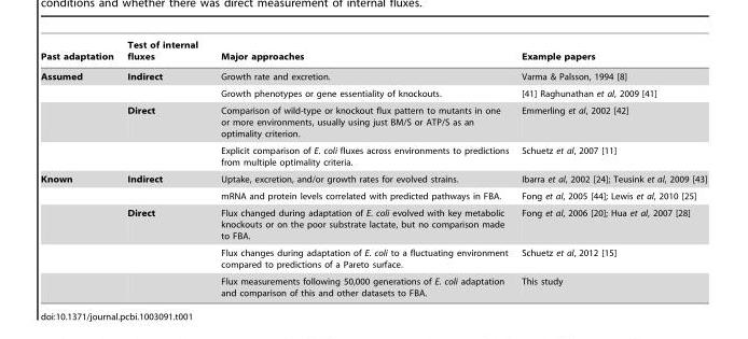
<table><thead><tr><td>Past adaptation</td><td>Test of internal fluxes</td><td>Major approaches</td><td>Example papers</td></tr></thead><tbody><tr><td rowspan="4">Assumed</td><td>Indirect</td><td>Growth rate and excretion.</td><td>Varma &amp; Palsson, 1994 [8]</td></tr><tr><td></td><td>Growth phenotypes or gene essentiality of knockouts.</td><td>[41] Raghunathan et al, 2009 [41]</td></tr><tr><td>Direct</td><td>Comparison of wild-type or knockout flux pattern to mutants in one or more environments, usually using just BM/S or ATP/S as an optimality criterion.</td><td>Emmerling et al, 2002 [42]</td></tr><tr><td></td><td>Explicit comparison of E. coli fluxes across environments to predictions from multiple optimality criteria.</td><td>Schuetz et al, 2007 [11]</td></tr><tr><td rowspan="5">Known</td><td>Indirect</td><td>Uptake, excretion, and/or growth rates for evolved strains.</td><td>Ibarra et al, 2002 [24]; Teusink et al, 2009 [43]</td></tr><tr><td></td><td>mRNA and protein levels correlated with predicted pathways in FBA.</td><td>Fong et al, 2005 [44]; Lewis et al, 2010 [25]</td></tr><tr><td>Direct</td><td>Flux changed during adaptation of E. coli evolved with key metabolic knockouts or on the poor substrate lactate, but no comparison made to FBA.</td><td>Fong et al, 2006 [20]; Hua et al, 2007 [28]</td></tr><tr><td></td><td>Flux changes during adaptation of E. coli to a fluctuating environment compared to predictions of a Pareto surface.</td><td>Schuetz et al, 2012 [15]</td></tr><tr><td></td><td>Flux measurements following 50,000 generations of E. coli adaptation and comparison of this and other datasets to FBA.</td><td>This study</td></tr></tbody></table>